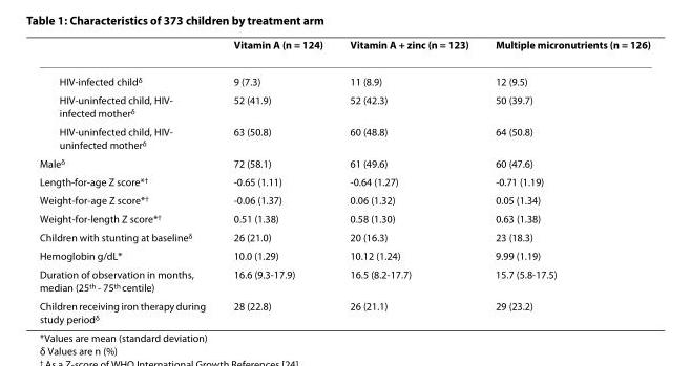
<table><thead><tr><td></td><td>Vitamin A (n = 124)</td><td>Vitamin A + zinc (n = 123)</td><td>Multiple micronutrients (n = 126)</td></tr></thead><tbody><tr><td>HIV-infected child<sup>δ</sup></td><td>9 (7.3)</td><td>11 (8.9)</td><td>12 (9.5)</td></tr><tr><td>HIV-uninfected child, HIV- infected mother<sup>δ</sup></td><td>52 (41.9)</td><td>52 (42.3)</td><td>50 (39.7)</td></tr><tr><td>HIV-uninfected child, HIV- uninfected mother<sup>δ</sup></td><td>63 (50.8)</td><td>60 (48.8)</td><td>64 (50.8)</td></tr><tr><td>Male<sup>δ</sup></td><td>72 (58.1)</td><td>61 (49.6)</td><td>60 (47.6)</td></tr><tr><td>Length-for-age Z score*<sup>†</sup></td><td>-0.65 (1.11)</td><td>-0.64 (1.27)</td><td>-0.71 (1.19)</td></tr><tr><td>Weight-for-age Z score*<sup>†</sup></td><td>-0.06 (1.37)</td><td>0.06 (1.32)</td><td>0.05 (1.34)</td></tr><tr><td>Weight-for-length Z score*<sup>†</sup></td><td>0.51 (1.38)</td><td>0.58 (1.30)</td><td>0.63 (1.38)</td></tr><tr><td>Children with stunting at baseline<sup>δ</sup></td><td>26 (21.0)</td><td>20 (16.3)</td><td>23 (18.3)</td></tr><tr><td>Hemoglobin g/dL*</td><td>10.0 (1.29)</td><td>10.12 (1.24)</td><td>9.99 (1.19)</td></tr><tr><td>Duration of observation in months, median (25<sup>th</sup> - 75<sup>th</sup> centile)</td><td>16.6 (9.3-17.9)</td><td>16.5 (8.2-17.7)</td><td>15.7 (5.8-17.5)</td></tr><tr><td>Children receiving iron therapy during study period<sup>δ</sup></td><td>28 (22.8)</td><td>26 (21.1)</td><td>29 (23.2)</td></tr></tbody></table>